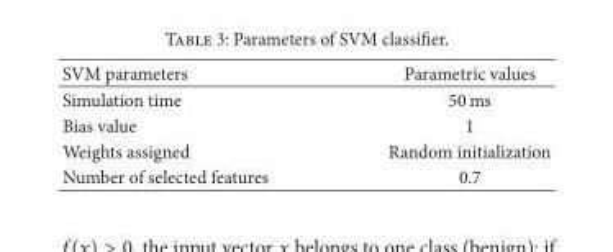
<table><thead><tr><td>SVM parameters</td><td>Parametric values</td></tr></thead><tbody><tr><td>Simulation time</td><td>50 ms</td></tr><tr><td>Bias value</td><td>1</td></tr><tr><td>Weights assigned</td><td>Random initialization</td></tr><tr><td>Number of selected features</td><td>0.7</td></tr></tbody></table>